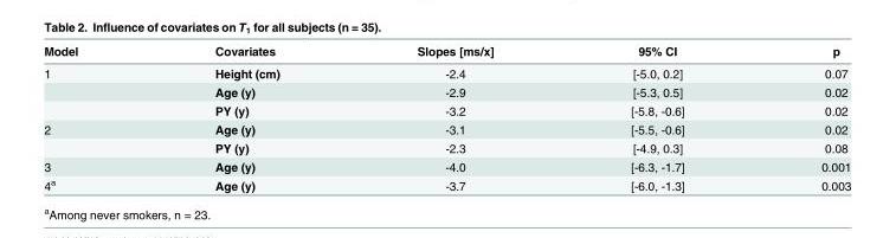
<table><thead><tr><td>Model</td><td>Covariates</td><td>Slopes [ms/x]</td><td>95% CI</td><td>p</td></tr></thead><tbody><tr><td rowspan="3">1</td><td>Height (cm)</td><td>-2.4</td><td>[-5.0, 0.2]</td><td>0.07</td></tr><tr><td>Age (y)</td><td>-2.9</td><td>[-5.3, 0.5]</td><td>0.02</td></tr><tr><td>PY (y)</td><td>-3.2</td><td>[-5.8, -0.6]</td><td>0.02</td></tr><tr><td rowspan="2">2</td><td>Age (y)</td><td>-3.1</td><td>[-5.5, -0.6]</td><td>0.02</td></tr><tr><td>PY (y)</td><td>-2.3</td><td>[-4.9, 0.3]</td><td>0.08</td></tr><tr><td>3</td><td>Age (y)</td><td>-4.0</td><td>[-6.3, -1.7]</td><td>0.001</td></tr><tr><td>4<sup>a</sup></td><td>Age (y)</td><td>-3.7</td><td>[-6.0, -1.3]</td><td>0.003</td></tr></tbody></table>